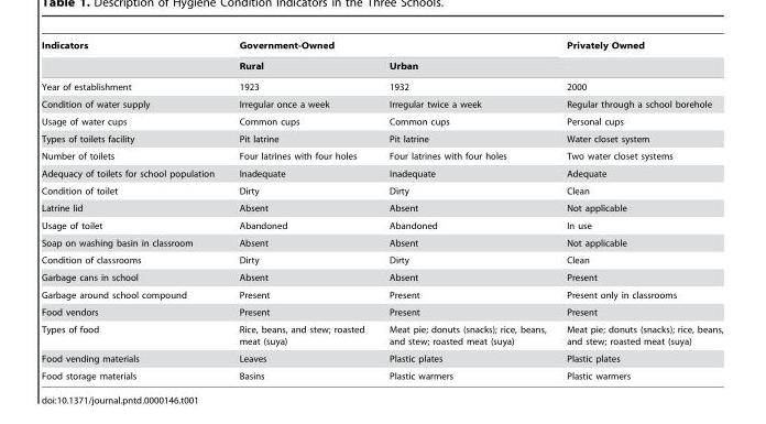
<table><thead><tr><td rowspan="2">Indicators</td><td colspan="2">Government-Owned</td><td rowspan="2">Privately Owned</td></tr><tr><td>Rural</td><td>Urban</td></tr></thead><tbody><tr><td>Year of establishment</td><td>1923</td><td>1932</td><td>2000</td></tr><tr><td>Condition of water supply</td><td>Irregular once a week</td><td>Irregular twice a week</td><td>Regular through a school borehole</td></tr><tr><td>Usage of water cups</td><td>Common cups</td><td>Common cups</td><td>Personal cups</td></tr><tr><td>Types of toilets facility</td><td>Pit latrine</td><td>Pit latrine</td><td>Water closet system</td></tr><tr><td>Number of toilets</td><td>Four latrines with four holes</td><td>Four latrines with four holes</td><td>Two water closet systems</td></tr><tr><td>Adequacy of toilets for school population</td><td>Inadequate</td><td>Inadequate</td><td>Adequate</td></tr><tr><td>Condition of toilet</td><td>Dirty</td><td>Dirty</td><td>Clean</td></tr><tr><td>Latrine lid</td><td>Absent</td><td>Absent</td><td>Not applicable</td></tr><tr><td>Usage of toilet</td><td>Abandoned</td><td>Abandoned</td><td>In use</td></tr><tr><td>Soap on washing basin in classroom</td><td>Absent</td><td>Absent</td><td>Not applicable</td></tr><tr><td>Condition of classrooms</td><td>Dirty</td><td>Dirty</td><td>Clean</td></tr><tr><td>Garbage cans in school</td><td>Absent</td><td>Absent</td><td>Present</td></tr><tr><td>Garbage around school compound</td><td>Present</td><td>Present</td><td>Present only in classrooms</td></tr><tr><td>Food vendors</td><td>Present</td><td>Present</td><td>Present</td></tr><tr><td>Types of food</td><td>Rice, beans, and stew; roasted meat (suya)</td><td>Meat pie; donuts (snacks); rice, beans, and stew; roasted meat (suya)</td><td>Meat pie; donuts (snacks); rice, beans, and stew; roasted meat (suya)</td></tr><tr><td>Food vending materials</td><td>Leaves</td><td>Plastic plates</td><td>Plastic plates</td></tr><tr><td>Food storage materials</td><td>Basins</td><td>Plastic warmers</td><td>Plastic warmers</td></tr></tbody></table>